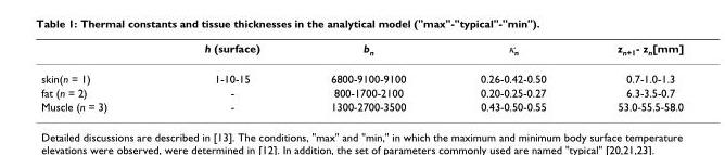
<table><thead><tr><td></td><td>h (surface)</td><td>b<sub>n</sub></td><td>κ<sub>n</sub></td><td>z<sub>n+1</sub>- z<sub>n</sub>[mm]</td></tr></thead><tbody><tr><td>skin(n = 1)</td><td>1-10-15</td><td>6800-9100-9100</td><td>0.26-0.42-0.50</td><td>0.7-1.0-1.3</td></tr><tr><td>fat (n = 2)</td><td>-</td><td>800-1700-2100</td><td>0.20-0.25-0.27</td><td>6.3-3.5-0.7</td></tr><tr><td>Muscle (n = 3)</td><td>-</td><td>1300-2700-3500</td><td>0.43-0.50-0.55</td><td>53.0-55.5-58.0</td></tr></tbody></table>